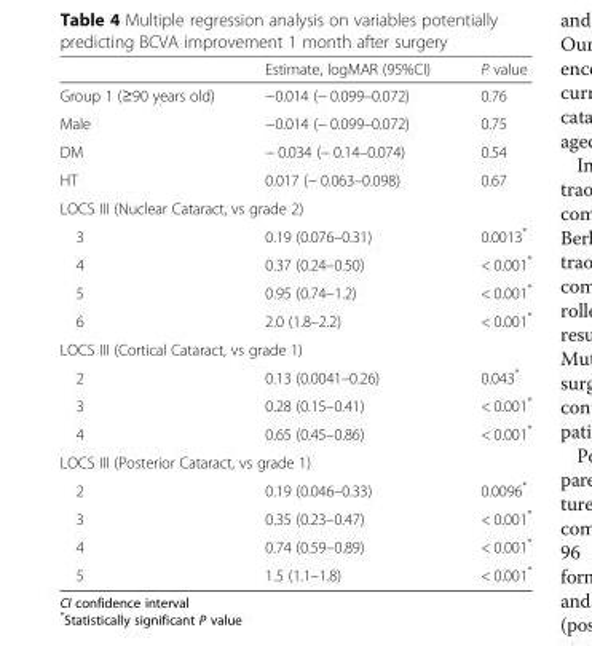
<table><thead><tr><td></td><td>Estimate, logMAR (95%CI)</td><td>P value</td></tr></thead><tbody><tr><td>Group 1 (≥90 years old)</td><td>−0.014 (− 0.099–0.072)</td><td>0.76</td></tr><tr><td>Male</td><td>−0.014 (− 0.099–0.072)</td><td>0.75</td></tr><tr><td>DM</td><td>− 0.034 (− 0.14–0.074)</td><td>0.54</td></tr><tr><td>HT</td><td>0.017 (− 0.063–0.098)</td><td>0.67</td></tr><tr><td colspan="3">LOCS III (Nuclear Cataract, vs grade 2)</td></tr><tr><td>3</td><td>0.19 (0.076–0.31)</td><td>0.0013*</td></tr><tr><td>4</td><td>0.37 (0.24–0.50)</td><td>&lt; 0.001*</td></tr><tr><td>5</td><td>0.95 (0.74–1.2)</td><td>&lt; 0.001*</td></tr><tr><td>6</td><td>2.0 (1.8–2.2)</td><td>&lt; 0.001*</td></tr><tr><td colspan="3">LOCS III (Cortical Cataract, vs grade 1)</td></tr><tr><td>2</td><td>0.13 (0.0041–0.26)</td><td>0.043*</td></tr><tr><td>3</td><td>0.28 (0.15–0.41)</td><td>&lt; 0.001*</td></tr><tr><td>4</td><td>0.65 (0.45–0.86)</td><td>&lt; 0.001*</td></tr><tr><td colspan="3">LOCS III (Posterior Cataract, vs grade 1)</td></tr><tr><td>2</td><td>0.19 (0.046–0.33)</td><td>0.0096*</td></tr><tr><td>3</td><td>0.35 (0.23–0.47)</td><td>&lt; 0.001*</td></tr><tr><td>4</td><td>0.74 (0.59–0.89)</td><td>&lt; 0.001*</td></tr><tr><td>5</td><td>1.5 (1.1–1.8)</td><td>&lt; 0.001*</td></tr></tbody></table>